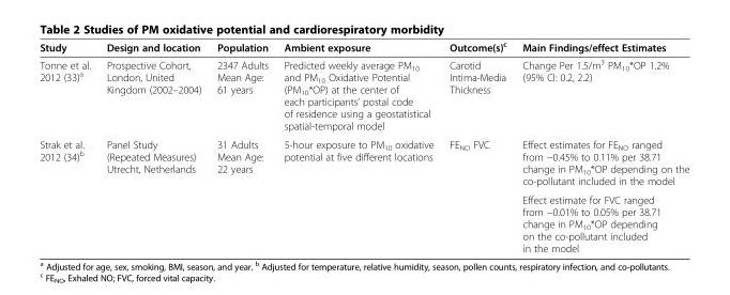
<table><thead><tr><td>Study</td><td>Design and location</td><td>Population</td><td>Ambient exposure</td><td>Outcome(s)<sup>c</sup></td><td>Main Findings/effect Estimates</td></tr></thead><tbody><tr><td>Tonne et al. 2012 (33)<sup>a</sup></td><td>Prospective Cohort, London, United Kingdom (2002–2004)</td><td>2347 Adults Mean Age: 61 years</td><td>Predicted weekly average PM<sub>10</sub> and PM<sub>10</sub> Oxidative Potential (PM<sub>10</sub>*OP) at the center of each participants’ postal code of residence using a geostatistical spatial-temporal model</td><td>Carotid Intima-Media Thickness</td><td>Change Per 1.5/m<sup>3</sup> PM<sub>10</sub>*OP 1.2% (95% CI: 0.2, 2.2)</td></tr><tr><td rowspan="2">Strak et al. 2012 (34)<sup>b</sup></td><td>Panel Study (Repeated Measures) Utrecht, Netherlands</td><td>31 Adults Mean Age: 22 years</td><td>5-hour exposure to PM<sub>10</sub> oxidative potential at five different locations</td><td>FE<sub>NO</sub> FVC</td><td>Effect estimates for FE<sub>NO</sub> ranged from −0.45% to 0.11% per 38.71 change in PM<sub>10</sub>*OP depending on the co-pollutant included in the model</td></tr><tr><td></td><td></td><td></td><td></td><td>Effect estimate for FVC ranged from −0.01% to 0.05% per 38.71 change in PM<sub>10</sub>*OP depending on the co-pollutant included in the model</td></tr></tbody></table>